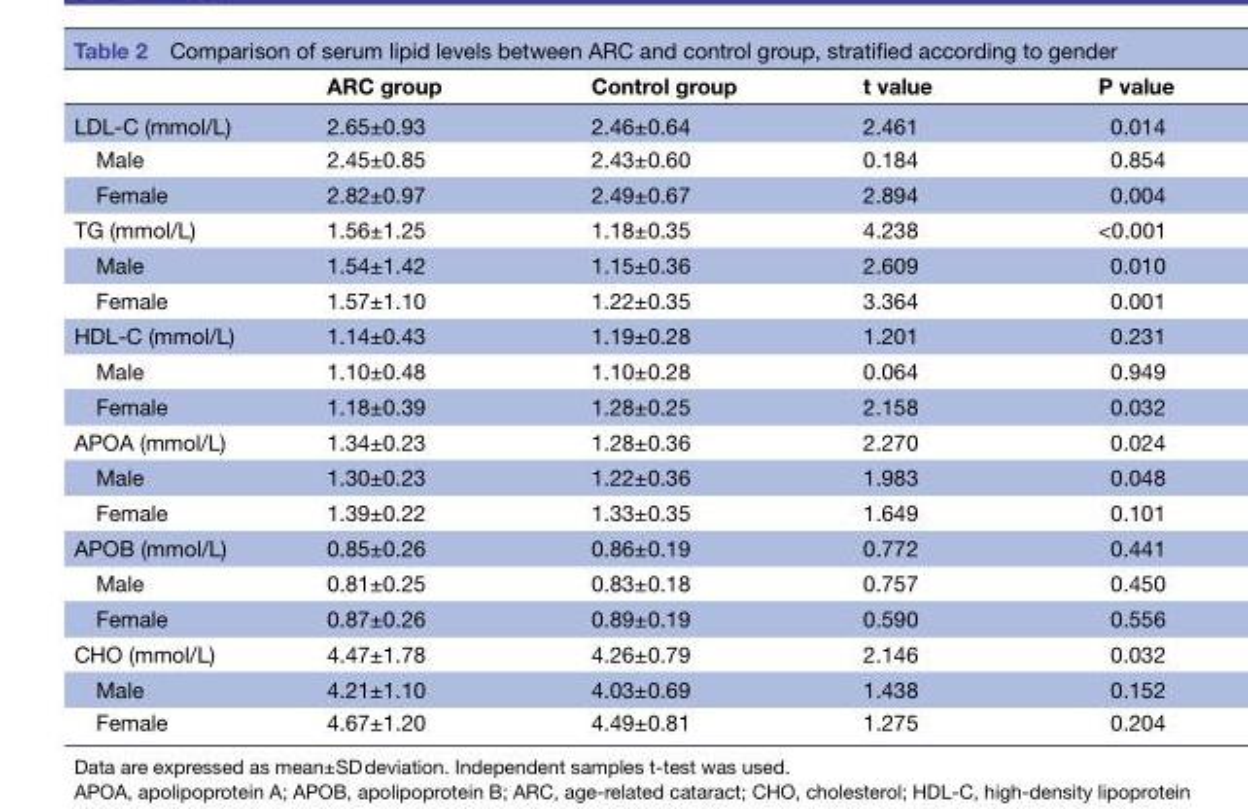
<table><thead><tr><td></td><td>ARC group</td><td>Control group</td><td>t value</td><td>P value</td></tr></thead><tbody><tr><td>LDL-C (mmol/L)</td><td>2.65±0.93</td><td>2.46±0.64</td><td>2.461</td><td>0.014</td></tr><tr><td>Male</td><td>2.45±0.85</td><td>2.43±0.60</td><td>0.184</td><td>0.854</td></tr><tr><td>Female</td><td>2.82±0.97</td><td>2.49±0.67</td><td>2.894</td><td>0.004</td></tr><tr><td>TG (mmol/L)</td><td>1.56±1.25</td><td>1.18±0.35</td><td>4.238</td><td>&lt;0.001</td></tr><tr><td>Male</td><td>1.54±1.42</td><td>1.15±0.36</td><td>2.609</td><td>0.010</td></tr><tr><td>Female</td><td>1.57±1.10</td><td>1.22±0.35</td><td>3.364</td><td>0.001</td></tr><tr><td>HDL-C (mmol/L)</td><td>1.14±0.43</td><td>1.19±0.28</td><td>1.201</td><td>0.231</td></tr><tr><td>Male</td><td>1.10±0.48</td><td>1.10±0.28</td><td>0.064</td><td>0.949</td></tr><tr><td>Female</td><td>1.18±0.39</td><td>1.28±0.25</td><td>2.158</td><td>0.032</td></tr><tr><td>APOA (mmol/L)</td><td>1.34±0.23</td><td>1.28±0.36</td><td>2.270</td><td>0.024</td></tr><tr><td>Male</td><td>1.30±0.23</td><td>1.22±0.36</td><td>1.983</td><td>0.048</td></tr><tr><td>Female</td><td>1.39±0.22</td><td>1.33±0.35</td><td>1.649</td><td>0.101</td></tr><tr><td>APOB (mmol/L)</td><td>0.85±0.26</td><td>0.86±0.19</td><td>0.772</td><td>0.441</td></tr><tr><td>Male</td><td>0.81±0.25</td><td>0.83±0.18</td><td>0.757</td><td>0.450</td></tr><tr><td>Female</td><td>0.87±0.26</td><td>0.89±0.19</td><td>0.590</td><td>0.556</td></tr><tr><td>CHO (mmol/L)</td><td>4.47±1.78</td><td>4.26±0.79</td><td>2.146</td><td>0.032</td></tr><tr><td>Male</td><td>4.21±1.10</td><td>4.03±0.69</td><td>1.438</td><td>0.152</td></tr><tr><td>Female</td><td>4.67±1.20</td><td>4.49±0.81</td><td>1.275</td><td>0.204</td></tr></tbody></table>